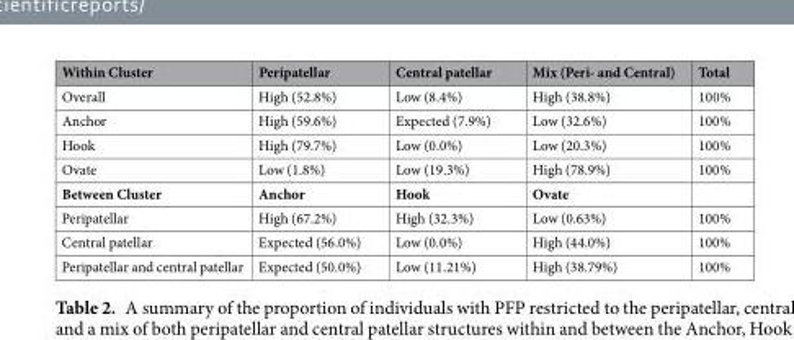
<table><thead><tr><td>Within Cluster</td><td>Peripatellar</td><td>Central patellar</td><td>Mix (Peri- and Central)</td><td>Total</td></tr></thead><tbody><tr><td>Overall</td><td>High (52.8%)</td><td>Low (8.4%)</td><td>High (38.8%)</td><td>100%</td></tr><tr><td>Anchor</td><td>High (59.6%)</td><td>Expected (7.9%)</td><td>Low (32.6%)</td><td>100%</td></tr><tr><td>Hook</td><td>High (79.7%)</td><td>Low (0.0%)</td><td>Low (20.3%)</td><td>100%</td></tr><tr><td>Ovate</td><td>Low (1.8%)</td><td>Low (19.3%)</td><td>High (78.9%)</td><td>100%</td></tr><tr><td>Between Cluster</td><td>Anchor</td><td>Hook</td><td>Ovate</td><td></td></tr><tr><td>Peripatellar</td><td>High (67.2%)</td><td>High (32.3%)</td><td>Low (0.63%)</td><td>100%</td></tr><tr><td>Central patellar</td><td>Expected (56.0%)</td><td>Low (0.0%)</td><td>High (44.0%)</td><td>100%</td></tr><tr><td>Peripatellar and central patellar</td><td>Expected (50.0%)</td><td>Low (11.21%)</td><td>High (38.79%)</td><td>100%</td></tr></tbody></table>